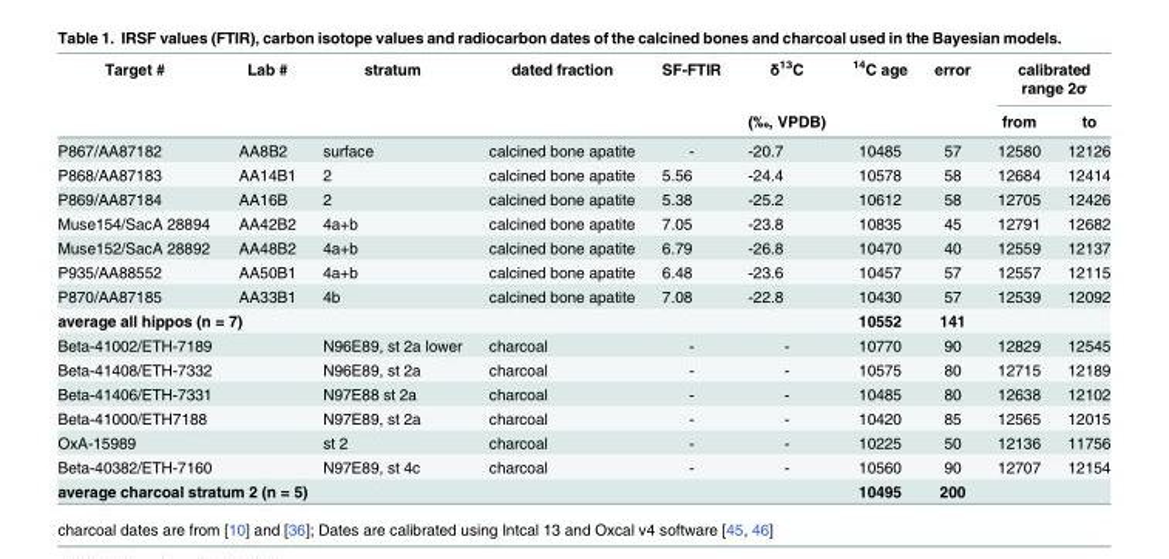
<table><thead><tr><td rowspan="2">Target #</td><td rowspan="2">Lab #</td><td rowspan="2">stratum</td><td rowspan="2">dated fraction</td><td rowspan="2">SF-FTIR</td><td rowspan="2">δ<sup>13</sup>C (‰, VPDB)</td><td rowspan="2"><sup>14</sup>C age</td><td rowspan="2">error</td><td colspan="2">calibrated range 2σ</td></tr><tr><td>from</td><td>to</td></tr></thead><tbody><tr><td>P867/AA87182</td><td>AA8B2</td><td>surface</td><td>calcined bone apatite</td><td>-</td><td>-20.7</td><td>10485</td><td>57</td><td>12580</td><td>12126</td></tr><tr><td>P868/AA87183</td><td>AA14B1</td><td>2</td><td>calcined bone apatite</td><td>5.56</td><td>-24.4</td><td>10578</td><td>58</td><td>12684</td><td>12414</td></tr><tr><td>P869/AA87184</td><td>AA16B</td><td>2</td><td>calcined bone apatite</td><td>5.38</td><td>-25.2</td><td>10612</td><td>58</td><td>12705</td><td>12426</td></tr><tr><td>Muse154/SacA 28894</td><td>AA42B2</td><td>4a+b</td><td>calcined bone apatite</td><td>7.05</td><td>-23.8</td><td>10835</td><td>45</td><td>12791</td><td>12682</td></tr><tr><td>Muse152/SacA 28892</td><td>AA48B2</td><td>4a+b</td><td>calcined bone apatite</td><td>6.79</td><td>-26.8</td><td>10470</td><td>40</td><td>12559</td><td>12137</td></tr><tr><td>P935/AA88552</td><td>AA50B1</td><td>4a+b</td><td>calcined bone apatite</td><td>6.48</td><td>-23.6</td><td>10457</td><td>57</td><td>12557</td><td>12115</td></tr><tr><td>P870/AA87185</td><td>AA33B1</td><td>4b</td><td>calcined bone apatite</td><td>7.08</td><td>-22.8</td><td>10430</td><td>57</td><td>12539</td><td>12092</td></tr><tr><td colspan="3">average all hippos (n = 7)</td><td></td><td></td><td></td><td>10552</td><td>141</td><td></td><td></td></tr><tr><td>Beta-41002/ETH-7189</td><td></td><td>N96E89, st 2a lower</td><td>charcoal</td><td>-</td><td>-</td><td>10770</td><td>90</td><td>12829</td><td>12545</td></tr><tr><td>Beta-41408/ETH-7332</td><td></td><td>N96E89, st 2a</td><td>charcoal</td><td>-</td><td>-</td><td>10575</td><td>80</td><td>12715</td><td>12189</td></tr><tr><td>Beta-41406/ETH-7331</td><td></td><td>N97E88 st 2a</td><td>charcoal</td><td>-</td><td>-</td><td>10485</td><td>80</td><td>12638</td><td>12102</td></tr><tr><td>Beta-41000/ETH7188</td><td></td><td>N97E89, st 2a</td><td>charcoal</td><td>-</td><td>-</td><td>10420</td><td>85</td><td>12565</td><td>12015</td></tr><tr><td>OxA-15989</td><td></td><td>st 2</td><td>charcoal</td><td>-</td><td>-</td><td>10225</td><td>50</td><td>12136</td><td>11756</td></tr><tr><td>Beta-40382/ETH-7160</td><td></td><td>N97E89, st 4c</td><td>charcoal</td><td>-</td><td>-</td><td>10560</td><td>90</td><td>12707</td><td>12154</td></tr><tr><td colspan="3">average charcoal stratum 2 (n = 5)</td><td></td><td></td><td></td><td>10495</td><td>200</td><td></td><td></td></tr></tbody></table>